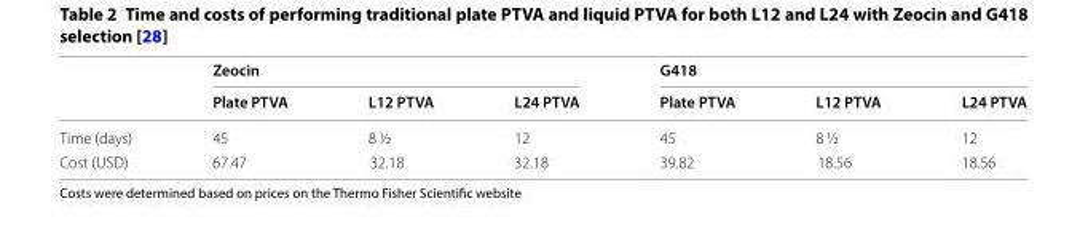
<table><thead><tr><td rowspan="2"></td><td colspan="3">Zeocin</td><td colspan="3">G418</td></tr><tr><td>Plate PTVA</td><td>L12 PTVA</td><td>L24 PTVA</td><td>Plate PTVA</td><td>L12 PTVA</td><td>L24 PTVA</td></tr></thead><tbody><tr><td>Time (days)</td><td>45</td><td>8 ½</td><td>12</td><td>45</td><td>8 ½</td><td>12</td></tr><tr><td>Cost (USD)</td><td>67.47</td><td>32.18</td><td>32.18</td><td>39.82</td><td>18.56</td><td>18.56</td></tr></tbody></table>